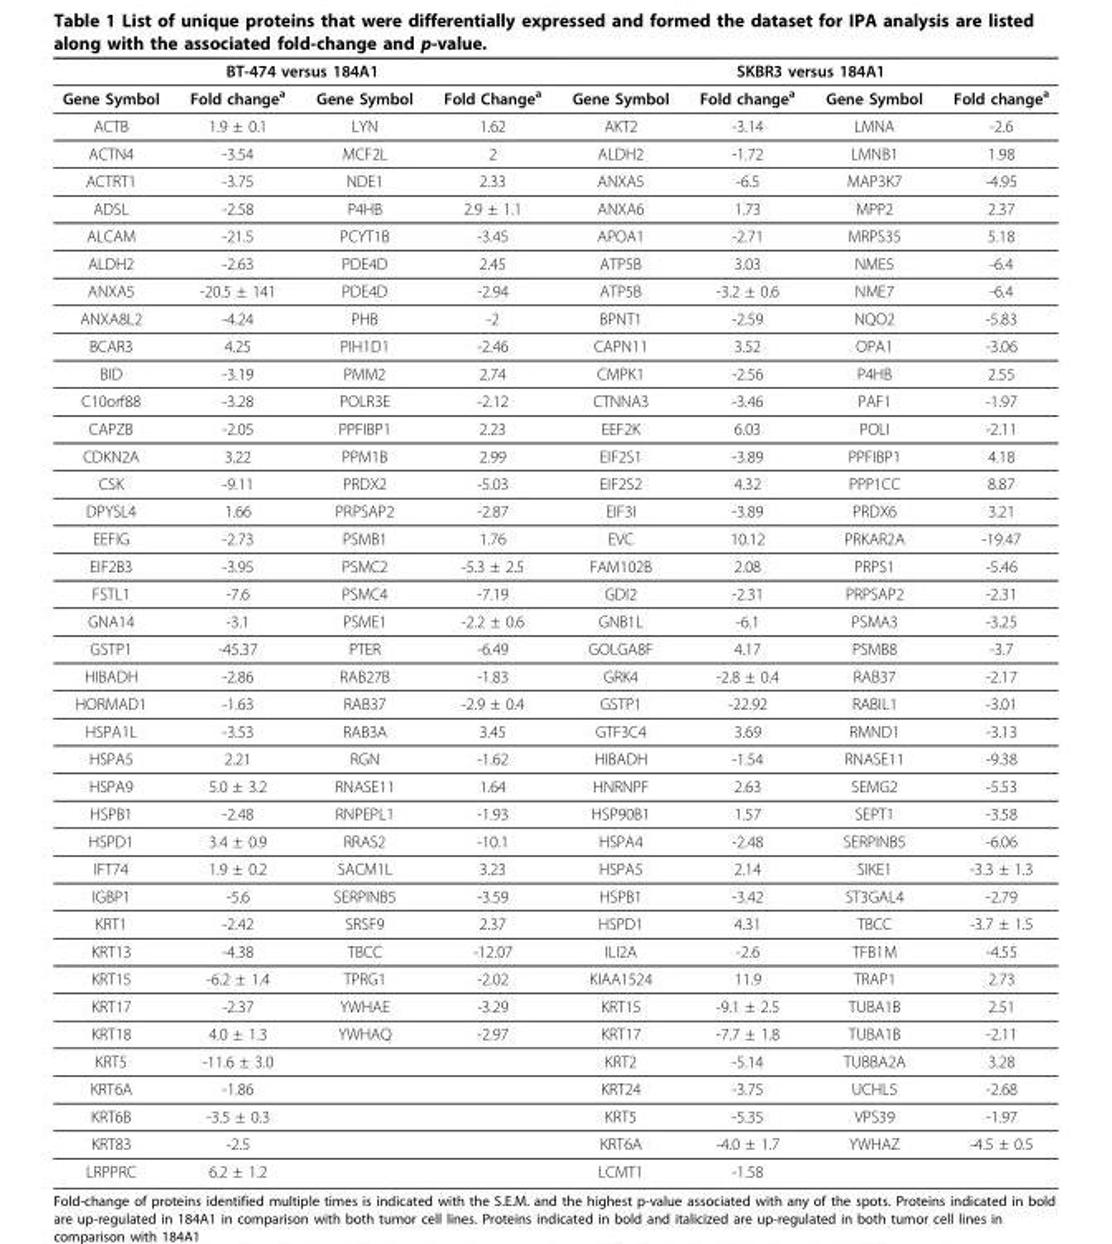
<table><thead><tr><td colspan="4">BT-474 versus 184A1</td><td colspan="4">SKBR3 versus 184A1</td></tr><tr><td>Gene Symbol</td><td>Fold change<sup>a</sup></td><td>Gene Symbol</td><td>Fold Change<sup>a</sup></td><td>Gene Symbol</td><td>Fold change<sup>a</sup></td><td>Gene Symbol</td><td>Fold change<sup>a</sup></td></tr></thead><tbody><tr><td>ACTB</td><td>1.9 ± 0.1</td><td>LYN</td><td>1.62</td><td>AKT2</td><td>-3.14</td><td>LMNA</td><td>-2.6</td></tr><tr><td>ACTN4</td><td>-3.54</td><td>MCF2L</td><td>2</td><td>ALDH2</td><td>-1.72</td><td>LMNB1</td><td>1.98</td></tr><tr><td>ACTRT1</td><td>-3.75</td><td>NDE1</td><td>2.33</td><td>ANXA5</td><td>-6.5</td><td>MAP3K7</td><td>-4.95</td></tr><tr><td>ADSL</td><td>-2.58</td><td>P4HB</td><td>2.9 ± 1.1</td><td>ANXA6</td><td>1.73</td><td>MPP2</td><td>2.37</td></tr><tr><td>ALCAM</td><td>-21.5</td><td>PCYT1B</td><td>-3.45</td><td>APOA1</td><td>-2.71</td><td>MRPS35</td><td>5.18</td></tr><tr><td>ALDH2</td><td>-2.63</td><td>PDE4D</td><td>2.45</td><td>ATP5B</td><td>3.03</td><td>NME5</td><td>-6.4</td></tr><tr><td>ANXA5</td><td>-20.5 ± 141</td><td>PDE4D</td><td>-2.94</td><td>ATP5B</td><td>-3.2 ± 0.6</td><td>NME7</td><td>-6.4</td></tr><tr><td>ANXA8L2</td><td>-4.24</td><td>PHB</td><td>-2</td><td>BPNT1</td><td>-2.59</td><td>NQO2</td><td>-5.83</td></tr><tr><td>BCAR3</td><td>4.25</td><td>PIH1D1</td><td>-2.46</td><td>CAPN11</td><td>3.52</td><td>OPA1</td><td>-3.06</td></tr><tr><td>BID</td><td>-3.19</td><td>PMM2</td><td>2.74</td><td>CMPK1</td><td>-2.56</td><td>P4HB</td><td>2.55</td></tr><tr><td>C10orf88</td><td>-3.28</td><td>POLR3E</td><td>-2.12</td><td>CTNNA3</td><td>-3.46</td><td>PAF1</td><td>-1.97</td></tr><tr><td>CAPZB</td><td>-2.05</td><td>PPFIBP1</td><td>2.23</td><td>EEF2K</td><td>6.03</td><td>POLI</td><td>-2.11</td></tr><tr><td>CDKN2A</td><td>3.22</td><td>PPM1B</td><td>2.99</td><td>EIF2S1</td><td>-3.89</td><td>PPFIBP1</td><td>4.18</td></tr><tr><td>CSK</td><td>-9.11</td><td>PRDX2</td><td>-5.03</td><td>EIF2S2</td><td>4.32</td><td>PPP1CC</td><td>8.87</td></tr><tr><td>DPYSL4</td><td>1.66</td><td>PRPSAP2</td><td>-2.87</td><td>EIF3I</td><td>-3.89</td><td>PRDX6</td><td>3.21</td></tr><tr><td>EEFIG</td><td>-2.73</td><td>PSMB1</td><td>1.76</td><td>EVC</td><td>10.12</td><td>PRKAR2A</td><td>-19.47</td></tr><tr><td>EIF2B3</td><td>-3.95</td><td>PSMC2</td><td>-5.3 ± 2.5</td><td>FAM102B</td><td>2.08</td><td>PRPS1</td><td>-5.46</td></tr><tr><td>FSTL1</td><td>-7.6</td><td>PSMC4</td><td>-7.19</td><td>GDI2</td><td>-2.31</td><td>PRPSAP2</td><td>-2.31</td></tr><tr><td>GNA14</td><td>-3.1</td><td>PSME1</td><td>-2.2 ± 0.6</td><td>GNB1L</td><td>-6.1</td><td>PSMA3</td><td>-3.25</td></tr><tr><td>GSTP1</td><td>-45.37</td><td>PTER</td><td>-6.49</td><td>GOLGA8F</td><td>4.17</td><td>PSMB8</td><td>-3.7</td></tr><tr><td>HIBADH</td><td>-2.86</td><td>RAB27B</td><td>-1.83</td><td>GRK4</td><td>-2.8 ± 0.4</td><td>RAB37</td><td>-2.17</td></tr><tr><td>HORMAD1</td><td>-1.63</td><td>RAB37</td><td>-2.9 ± 0.4</td><td>GSTP1</td><td>-22.92</td><td>RABIL1</td><td>-3.01</td></tr><tr><td>HSPA1L</td><td>-3.53</td><td>RAB3A</td><td>3.45</td><td>GTF3C4</td><td>3.69</td><td>RMND1</td><td>-3.13</td></tr><tr><td>HSPA5</td><td>2.21</td><td>RGN</td><td>-1.62</td><td>HIBADH</td><td>-1.54</td><td>RNASE11</td><td>-9.38</td></tr><tr><td>HSPA9</td><td>5.0 ± 3.2</td><td>RNASE11</td><td>1.64</td><td>HNRNPF</td><td>2.63</td><td>SEMG2</td><td>-5.53</td></tr><tr><td>HSPB1</td><td>-2.48</td><td>RNPEPL1</td><td>-1.93</td><td>HSP90B1</td><td>1.57</td><td>SEPT1</td><td>-3.58</td></tr><tr><td>HSPD1</td><td>3.4 ± 0.9</td><td>RRAS2</td><td>-10.1</td><td>HSPA4</td><td>-2.48</td><td>SERPINB5</td><td>-6.06</td></tr><tr><td>IFT74</td><td>1.9 ± 0.2</td><td>SACM1L</td><td>3.23</td><td>HSPA5</td><td>2.14</td><td>SIKE1</td><td>-3.3 ± 1.3</td></tr><tr><td>IGBP1</td><td>-5.6</td><td>SERPINB5</td><td>-3.59</td><td>HSPB1</td><td>-3.42</td><td>ST3GAL4</td><td>-2.79</td></tr><tr><td>KRT1</td><td>-2.42</td><td>SRSF9</td><td>2.37</td><td>HSPD1</td><td>4.31</td><td>TBCC</td><td>-3.7 ± 1.5</td></tr><tr><td>KRT13</td><td>-4.38</td><td>TBCC</td><td>-12.07</td><td>ILI2A</td><td>-2.6</td><td>TFB1M</td><td>-4.55</td></tr><tr><td>KRT15</td><td>-6.2 ± 1.4</td><td>TPRG1</td><td>-2.02</td><td>KIAA1524</td><td>11.9</td><td>TRAP1</td><td>2.73</td></tr><tr><td>KRT17</td><td>-2.37</td><td>YWHAE</td><td>-3.29</td><td>KRT15</td><td>-9.1 ± 2.5</td><td>TUBA1B</td><td>2.51</td></tr><tr><td>KRT18</td><td>4.0 ± 1.3</td><td>YWHAQ</td><td>-2.97</td><td>KRT17</td><td>-7.7 ± 1.8</td><td>TUBA1B</td><td>-2.11</td></tr><tr><td>KRT5</td><td>-11.6 ± 3.0</td><td></td><td></td><td>KRT2</td><td>-5.14</td><td>TUBBA2A</td><td>3.28</td></tr><tr><td>KRT6A</td><td>-1.86</td><td></td><td></td><td>KRT24</td><td>-3.75</td><td>UCHL5</td><td>-2.68</td></tr><tr><td>KRT6B</td><td>-3.5 ± 0.3</td><td></td><td></td><td>KRT5</td><td>-5.35</td><td>VPS39</td><td>-1.97</td></tr><tr><td>KRT83</td><td>-2.5</td><td></td><td></td><td>KRT6A</td><td>-4.0 ± 1.7</td><td>YWHAZ</td><td>-4.5 ± 0.5</td></tr><tr><td>LRPPRC</td><td>6.2 ± 1.2</td><td></td><td></td><td>LCMT1</td><td>-1.58</td><td></td><td></td></tr></tbody></table>